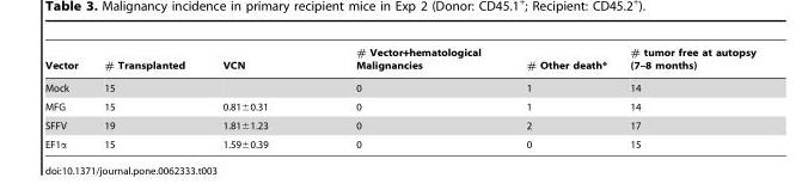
<table><thead><tr><td>Vector</td><td># Transplanted</td><td>VCN</td><td># Vector+hematological Malignancies</td><td># Other death*</td><td># tumor free at autopsy (7–8 months)</td></tr></thead><tbody><tr><td>Mock</td><td>15</td><td></td><td>0</td><td>1</td><td>14</td></tr><tr><td>MFG</td><td>15</td><td>0.81±0.31</td><td>0</td><td>1</td><td>14</td></tr><tr><td>SFFV</td><td>19</td><td>1.81±1.23</td><td>0</td><td>2</td><td>17</td></tr><tr><td>EF1α</td><td>15</td><td>1.59±0.39</td><td>0</td><td>0</td><td>15</td></tr></tbody></table>